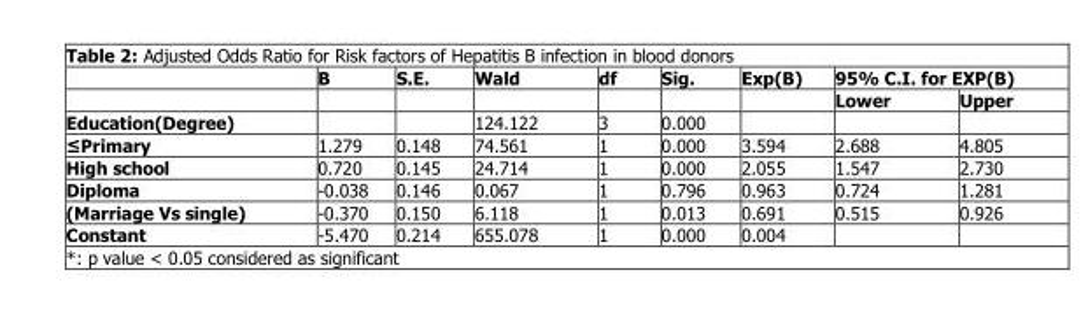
<table><thead><tr><td rowspan="2"></td><td rowspan="2">B</td><td rowspan="2">S.E.</td><td rowspan="2">Wald</td><td rowspan="2">df</td><td rowspan="2">Sig.</td><td rowspan="2">Exp(B)</td><td colspan="2">95% C.I. for EXP(B)</td></tr><tr><td>Lower</td><td>Upper</td></tr></thead><tbody><tr><td>Education(Degree)</td><td></td><td></td><td>124.122</td><td>3</td><td>0.000</td><td></td><td></td><td></td></tr><tr><td>≤Primary</td><td>1.279</td><td>0.148</td><td>74.561</td><td>1</td><td>0.000</td><td>3.594</td><td>2.688</td><td>4.805</td></tr><tr><td>High school</td><td>0.720</td><td>0.145</td><td>24.714</td><td>1</td><td>0.000</td><td>2.055</td><td>1.547</td><td>2.730</td></tr><tr><td>Diploma</td><td>-0.038</td><td>0.146</td><td>0.067</td><td>1</td><td>0.796</td><td>0.963</td><td>0.724</td><td>1.281</td></tr><tr><td>(Marriage Vs single)</td><td>-0.370</td><td>0.150</td><td>6.118</td><td>1</td><td>0.013</td><td>0.691</td><td>0.515</td><td>0.926</td></tr><tr><td>Constant</td><td>-5.470</td><td>0.214</td><td>655.078</td><td>1</td><td>0.000</td><td>0.004</td><td></td><td></td></tr></tbody></table>